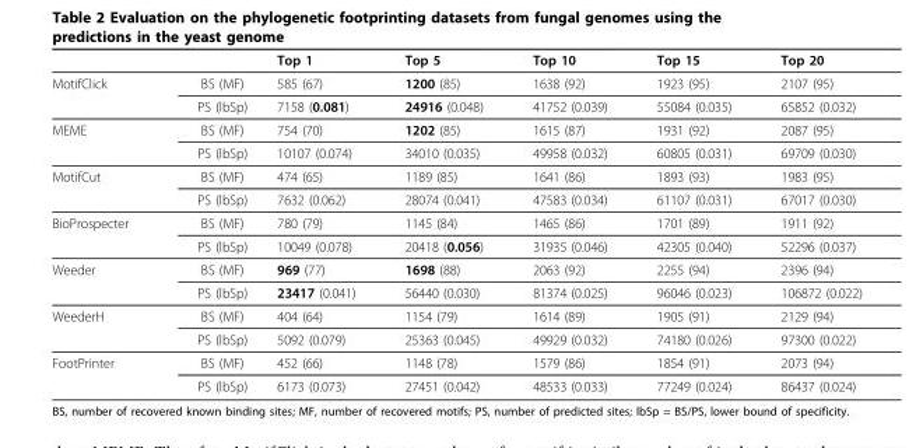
<table><thead><tr><td></td><td></td><td>Top 1</td><td>Top 5</td><td>Top 10</td><td>Top 15</td><td>Top 20</td></tr></thead><tbody><tr><td rowspan="2">MotifClick</td><td>BS (MF)</td><td>585 (67)</td><td>1200 (85)</td><td>1638 (92)</td><td>1923 (95)</td><td>2107 (95)</td></tr><tr><td>PS (lbSp)</td><td>7158 (0.081)</td><td>24916 (0.048)</td><td>41752 (0.039)</td><td>55084 (0.035)</td><td>65852 (0.032)</td></tr><tr><td rowspan="2">MEME</td><td>BS (MF)</td><td>754 (70)</td><td>1202 (85)</td><td>1615 (87)</td><td>1931 (92)</td><td>2087 (95)</td></tr><tr><td>PS (lbSp)</td><td>10107 (0.074)</td><td>34010 (0.035)</td><td>49958 (0.032)</td><td>60805 (0.031)</td><td>69709 (0.030)</td></tr><tr><td rowspan="2">MotifCut</td><td>BS (MF)</td><td>474 (65)</td><td>1189 (85)</td><td>1641 (86)</td><td>1893 (93)</td><td>1983 (95)</td></tr><tr><td>PS (lbSp)</td><td>7632 (0.062)</td><td>28074 (0.041)</td><td>47583 (0.034)</td><td>61107 (0.031)</td><td>67017 (0.030)</td></tr><tr><td rowspan="2">BioProspecter</td><td>BS (MF)</td><td>780 (79)</td><td>1145 (84)</td><td>1465 (86)</td><td>1701 (89)</td><td>1911 (92)</td></tr><tr><td>PS (lbSp)</td><td>10049 (0.078)</td><td>20418 (0.056)</td><td>31935 (0.046)</td><td>42305 (0.040)</td><td>52296 (0.037)</td></tr><tr><td rowspan="2">Weeder</td><td>BS (MF)</td><td>969 (77)</td><td>1698 (88)</td><td>2063 (92)</td><td>2255 (94)</td><td>2396 (94)</td></tr><tr><td>PS (lbSp)</td><td>23417 (0.041)</td><td>56440 (0.030)</td><td>81374 (0.025)</td><td>96046 (0.023)</td><td>106872 (0.022)</td></tr><tr><td rowspan="2">WeederH</td><td>BS (MF)</td><td>404 (64)</td><td>1154 (79)</td><td>1614 (89)</td><td>1905 (91)</td><td>2129 (94)</td></tr><tr><td>PS (lbSp)</td><td>5092 (0.079)</td><td>25363 (0.045)</td><td>49929 (0.032)</td><td>74180 (0.026)</td><td>97300 (0.022)</td></tr><tr><td rowspan="2">FootPrinter</td><td>BS (MF)</td><td>452 (66)</td><td>1148 (78)</td><td>1579 (86)</td><td>1854 (91)</td><td>2073 (94)</td></tr><tr><td>PS (lbSp)</td><td>6173 (0.073)</td><td>27451 (0.042)</td><td>48533 (0.033)</td><td>77249 (0.024)</td><td>86437 (0.024)</td></tr></tbody></table>